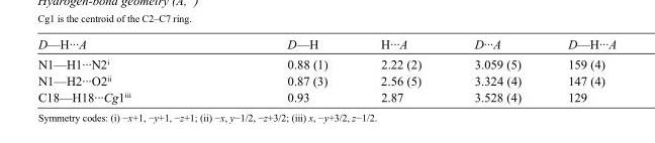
<table><tbody><tr><td>D—H···A</td><td>D—H</td><td>H···A</td><td>D···A</td><td>D—H···A</td></tr><tr><td>N1—H1···N2<sup>i</sup></td><td>0.88 (1)</td><td>2.22 (2)</td><td>3.059 (5)</td><td>159 (4)</td></tr><tr><td>N1—H2···O2<sup>ii</sup></td><td>0.87 (3)</td><td>2.56 (5)</td><td>3.324 (4)</td><td>147 (4)</td></tr><tr><td>C18—H18···Cg1<sup>iii</sup></td><td>0.93</td><td>2.87</td><td>3.528 (4)</td><td>129</td></tr></tbody></table>